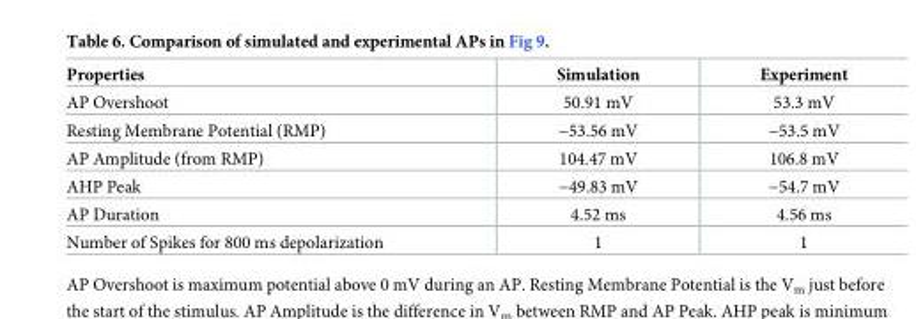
<table><thead><tr><td>Properties</td><td>Simulation</td><td>Experiment</td></tr></thead><tbody><tr><td>AP Overshoot</td><td>50.91 mV</td><td>53.3 mV</td></tr><tr><td>Resting Membrane Potential (RMP)</td><td>−53.56 mV</td><td>−53.5 mV</td></tr><tr><td>AP Amplitude (from RMP)</td><td>104.47 mV</td><td>106.8 mV</td></tr><tr><td>AHP Peak</td><td>−49.83 mV</td><td>−54.7 mV</td></tr><tr><td>AP Duration</td><td>4.52 ms</td><td>4.56 ms</td></tr><tr><td>Number of Spikes for 800 ms depolarization</td><td>1</td><td>1</td></tr></tbody></table>